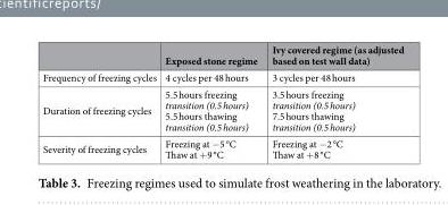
<table><thead><tr><td></td><td>Exposed stone regime</td><td>Ivy covered regime (as adjusted based on test wall data)</td></tr></thead><tbody><tr><td>Frequency of freezing cycles</td><td>4 cycles per 48 hours</td><td>3 cycles per 48 hours</td></tr><tr><td>Duration of freezing cycles</td><td>5.5 hours freezing transition (0.5 hours) 5.5 hours thawing transition (0.5 hours)</td><td>3.5 hours freezing transition (0.5 hours) 7.5 hours thawing transition (0.5 hours)</td></tr><tr><td>Severity of freezing cycles</td><td>Freezing at −5 °C Thaw at +9 °C</td><td>Freezing at −2 °C Thaw at +8 °C</td></tr></tbody></table>